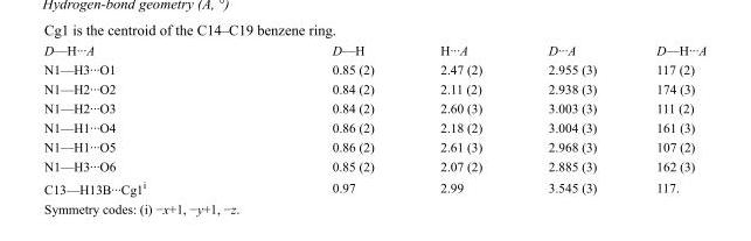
<table><tbody><tr><td>D—H···A</td><td>D—H</td><td>H···A</td><td>D···A</td><td>D—H···A</td></tr><tr><td>N1—H3···O1</td><td>0.85 (2)</td><td>2.47 (2)</td><td>2.955 (3)</td><td>117 (2)</td></tr><tr><td>N1—H2···O2</td><td>0.84 (2)</td><td>2.11 (2)</td><td>2.938 (3)</td><td>174 (3)</td></tr><tr><td>N1—H2···O3</td><td>0.84 (2)</td><td>2.60 (3)</td><td>3.003 (3)</td><td>111 (2)</td></tr><tr><td>N1—H1···O4</td><td>0.86 (2)</td><td>2.18 (2)</td><td>3.004 (3)</td><td>161 (3)</td></tr><tr><td>N1—H1···O5</td><td>0.86 (2)</td><td>2.61 (3)</td><td>2.968 (3)</td><td>107 (2)</td></tr><tr><td>N1—H3···O6</td><td>0.85 (2)</td><td>2.07 (2)</td><td>2.885 (3)</td><td>162 (3)</td></tr><tr><td>C13—H13B···Cg1<sup>i</sup></td><td>0.97</td><td>2.99</td><td>3.545 (3)</td><td>117.</td></tr></tbody></table>